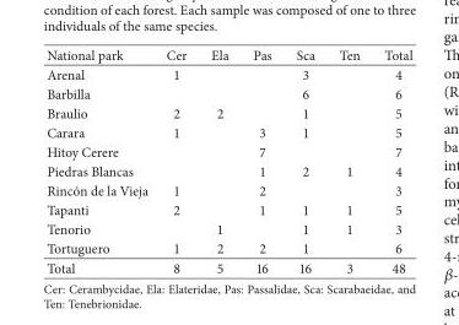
<table><thead><tr><td>National park</td><td>Cer</td><td>Ela</td><td>Pas</td><td>Sca</td><td>Ten</td><td>Total</td></tr></thead><tbody><tr><td>Arenal</td><td>1</td><td></td><td></td><td>3</td><td></td><td>4</td></tr><tr><td>Barbilla</td><td></td><td></td><td></td><td>6</td><td></td><td>6</td></tr><tr><td>Braulio</td><td>2</td><td>2</td><td></td><td>1</td><td></td><td>5</td></tr><tr><td>Carara</td><td>1</td><td></td><td>3</td><td>1</td><td></td><td>5</td></tr><tr><td>Hitoy Cerere</td><td></td><td></td><td>7</td><td></td><td></td><td>7</td></tr><tr><td>Piedras Blancas</td><td></td><td></td><td>1</td><td>2</td><td>1</td><td>4</td></tr><tr><td>Rinc´on de la Vieja</td><td>1</td><td></td><td>2</td><td></td><td></td><td>3</td></tr><tr><td>Tapanti</td><td>2</td><td></td><td>1</td><td>1</td><td>1</td><td>5</td></tr><tr><td>Tenorio</td><td></td><td>1</td><td></td><td>1</td><td>1</td><td>3</td></tr><tr><td>Tortuguero</td><td>1</td><td>2</td><td>2</td><td>1</td><td></td><td>6</td></tr><tr><td>Total</td><td>8</td><td>5</td><td>16</td><td>16</td><td>3</td><td>48</td></tr></tbody></table>